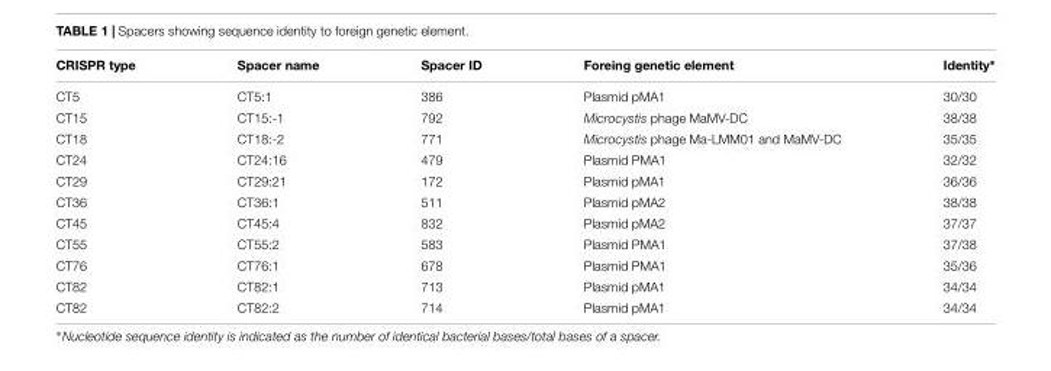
<table><thead><tr><td>CRISPR type</td><td>Spacer name</td><td>Spacer ID</td><td>Foreing genetic element</td><td>Identity∗</td></tr></thead><tbody><tr><td>CT5</td><td>CT5:1</td><td>386</td><td>Plasmid pMA1</td><td>30/30</td></tr><tr><td>CT15</td><td>CT15:-1</td><td>792</td><td>Microcystis phage MaMV-DC</td><td>38/38</td></tr><tr><td>CT18</td><td>CT18:-2</td><td>771</td><td>Microcystis phage Ma-LMM01 and MaMV-DC</td><td>35/35</td></tr><tr><td>CT24</td><td>CT24:16</td><td>479</td><td>Plasmid PMA1</td><td>32/32</td></tr><tr><td>CT29</td><td>CT29:21</td><td>172</td><td>Plasmid pMA1</td><td>36/36</td></tr><tr><td>CT36</td><td>CT36:1</td><td>511</td><td>Plasmid pMA2</td><td>38/38</td></tr><tr><td>CT45</td><td>CT45:4</td><td>832</td><td>Plasmid pMA2</td><td>37/37</td></tr><tr><td>CT55</td><td>CT55:2</td><td>583</td><td>Plasmid PMA1</td><td>37/38</td></tr><tr><td>CT76</td><td>CT76:1</td><td>678</td><td>Plasmid PMA1</td><td>35/36</td></tr><tr><td>CT82</td><td>CT82:1</td><td>713</td><td>Plasmid pMA1</td><td>34/34</td></tr><tr><td>CT82</td><td>CT82:2</td><td>714</td><td>Plasmid pMA1</td><td>34/34</td></tr></tbody></table>